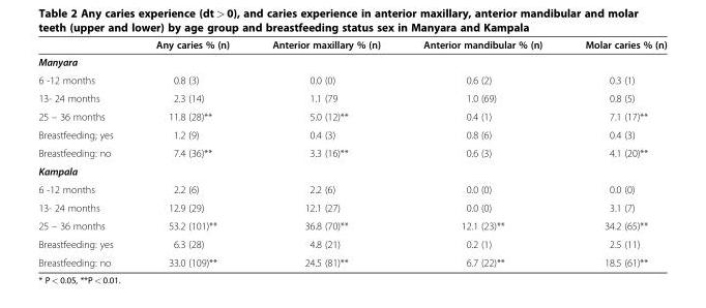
<table><thead><tr><td></td><td>Any caries % (n)</td><td>Anterior maxillary % (n)</td><td>Anterior mandibular % (n)</td><td>Molar caries % (n)</td></tr></thead><tbody><tr><td colspan="5">Manyara</td></tr><tr><td>6 -12 months</td><td>0.8 (3)</td><td>0.0 (0)</td><td>0.6 (2)</td><td>0.3 (1)</td></tr><tr><td>13- 24 months</td><td>2.3 (14)</td><td>1.1 (79</td><td>1.0 (69)</td><td>0.8 (5)</td></tr><tr><td>25 – 36 months</td><td>11.8 (28)**</td><td>5.0 (12)**</td><td>0.4 (1)</td><td>7.1 (17)**</td></tr><tr><td>Breastfeeding; yes</td><td>1.2 (9)</td><td>0.4 (3)</td><td>0.8 (6)</td><td>0.4 (3)</td></tr><tr><td>Breastfeeding: no</td><td>7.4 (36)**</td><td>3.3 (16)**</td><td>0.6 (3)</td><td>4.1 (20)**</td></tr><tr><td colspan="5">Kampala</td></tr><tr><td>6 -12 months</td><td>2.2 (6)</td><td>2.2 (6)</td><td>0.0 (0)</td><td>0.0 (0)</td></tr><tr><td>13- 24 months</td><td>12.9 (29)</td><td>12.1 (27)</td><td>0.0 (0)</td><td>3.1 (7)</td></tr><tr><td>25 – 36 months</td><td>53.2 (101)**</td><td>36.8 (70)**</td><td>12.1 (23)**</td><td>34.2 (65)**</td></tr><tr><td>Breastfeeding: yes</td><td>6.3 (28)</td><td>4.8 (21)</td><td>0.2 (1)</td><td>2.5 (11)</td></tr><tr><td>Breastfeeding: no</td><td>33.0 (109)**</td><td>24.5 (81)**</td><td>6.7 (22)**</td><td>18.5 (61)**</td></tr></tbody></table>